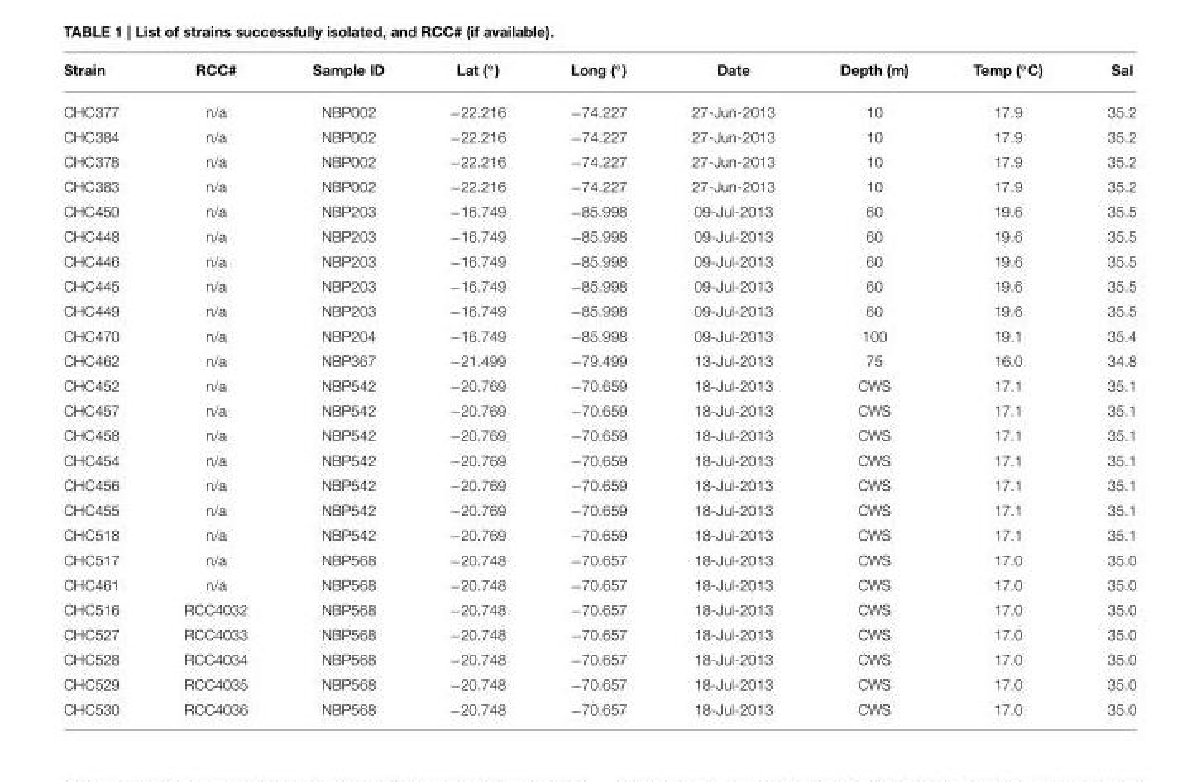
<table><thead><tr><td>Strain</td><td>RCC#</td><td>Sample ID</td><td>Lat (◦)</td><td>Long (◦)</td><td>Date</td><td>Depth (m)</td><td>Temp (◦C)</td><td>Sal</td></tr></thead><tbody><tr><td>CHC377</td><td>n/a</td><td>NBP002</td><td>−22.216</td><td>−74.227</td><td>27-Jun-2013</td><td>10</td><td>17.9</td><td>35.2</td></tr><tr><td>CHC384</td><td>n/a</td><td>NBP002</td><td>−22.216</td><td>−74.227</td><td>27-Jun-2013</td><td>10</td><td>17.9</td><td>35.2</td></tr><tr><td>CHC378</td><td>n/a</td><td>NBP002</td><td>−22.216</td><td>−74.227</td><td>27-Jun-2013</td><td>10</td><td>17.9</td><td>35.2</td></tr><tr><td>CHC383</td><td>n/a</td><td>NBP002</td><td>−22.216</td><td>−74.227</td><td>27-Jun-2013</td><td>10</td><td>17.9</td><td>35.2</td></tr><tr><td>CHC450</td><td>n/a</td><td>NBP203</td><td>−16.749</td><td>−85.998</td><td>09-Jul-2013</td><td>60</td><td>19.6</td><td>35.5</td></tr><tr><td>CHC448</td><td>n/a</td><td>NBP203</td><td>−16.749</td><td>−85.998</td><td>09-Jul-2013</td><td>60</td><td>19.6</td><td>35.5</td></tr><tr><td>CHC446</td><td>n/a</td><td>NBP203</td><td>−16.749</td><td>−85.998</td><td>09-Jul-2013</td><td>60</td><td>19.6</td><td>35.5</td></tr><tr><td>CHC445</td><td>n/a</td><td>NBP203</td><td>−16.749</td><td>−85.998</td><td>09-Jul-2013</td><td>60</td><td>19.6</td><td>35.5</td></tr><tr><td>CHC449</td><td>n/a</td><td>NBP203</td><td>−16.749</td><td>−85.998</td><td>09-Jul-2013</td><td>60</td><td>19.6</td><td>35.5</td></tr><tr><td>CHC470</td><td>n/a</td><td>NBP204</td><td>−16.749</td><td>−85.998</td><td>09-Jul-2013</td><td>100</td><td>19.1</td><td>35.4</td></tr><tr><td>CHC462</td><td>n/a</td><td>NBP367</td><td>−21.499</td><td>−79.499</td><td>13-Jul-2013</td><td>75</td><td>16.0</td><td>34.8</td></tr><tr><td>CHC452</td><td>n/a</td><td>NBP542</td><td>−20.769</td><td>−70.659</td><td>18-Jul-2013</td><td>CWS</td><td>17.1</td><td>35.1</td></tr><tr><td>CHC457</td><td>n/a</td><td>NBP542</td><td>−20.769</td><td>−70.659</td><td>18-Jul-2013</td><td>CWS</td><td>17.1</td><td>35.1</td></tr><tr><td>CHC458</td><td>n/a</td><td>NBP542</td><td>−20.769</td><td>−70.659</td><td>18-Jul-2013</td><td>CWS</td><td>17.1</td><td>35.1</td></tr><tr><td>CHC454</td><td>n/a</td><td>NBP542</td><td>−20.769</td><td>−70.659</td><td>18-Jul-2013</td><td>CWS</td><td>17.1</td><td>35.1</td></tr><tr><td>CHC456</td><td>n/a</td><td>NBP542</td><td>−20.769</td><td>−70.659</td><td>18-Jul-2013</td><td>CWS</td><td>17.1</td><td>35.1</td></tr><tr><td>CHC455</td><td>n/a</td><td>NBP542</td><td>−20.769</td><td>−70.659</td><td>18-Jul-2013</td><td>CWS</td><td>17.1</td><td>35.1</td></tr><tr><td>CHC518</td><td>n/a</td><td>NBP542</td><td>−20.769</td><td>−70.659</td><td>18-Jul-2013</td><td>CWS</td><td>17.1</td><td>35.1</td></tr><tr><td>CHC517</td><td>n/a</td><td>NBP568</td><td>−20.748</td><td>−70.657</td><td>18-Jul-2013</td><td>CWS</td><td>17.0</td><td>35.0</td></tr><tr><td>CHC461</td><td>n/a</td><td>NBP568</td><td>−20.748</td><td>−70.657</td><td>18-Jul-2013</td><td>CWS</td><td>17.0</td><td>35.0</td></tr><tr><td>CHC516</td><td>RCC4032</td><td>NBP568</td><td>−20.748</td><td>−70.657</td><td>18-Jul-2013</td><td>CWS</td><td>17.0</td><td>35.0</td></tr><tr><td>CHC527</td><td>RCC4033</td><td>NBP568</td><td>−20.748</td><td>−70.657</td><td>18-Jul-2013</td><td>CWS</td><td>17.0</td><td>35.0</td></tr><tr><td>CHC528</td><td>RCC4034</td><td>NBP568</td><td>−20.748</td><td>−70.657</td><td>18-Jul-2013</td><td>CWS</td><td>17.0</td><td>35.0</td></tr><tr><td>CHC529</td><td>RCC4035</td><td>NBP568</td><td>−20.748</td><td>−70.657</td><td>18-Jul-2013</td><td>CWS</td><td>17.0</td><td>35.0</td></tr><tr><td>CHC530</td><td>RCC4036</td><td>NBP568</td><td>−20.748</td><td>−70.657</td><td>18-Jul-2013</td><td>CWS</td><td>17.0</td><td>35.0</td></tr></tbody></table>